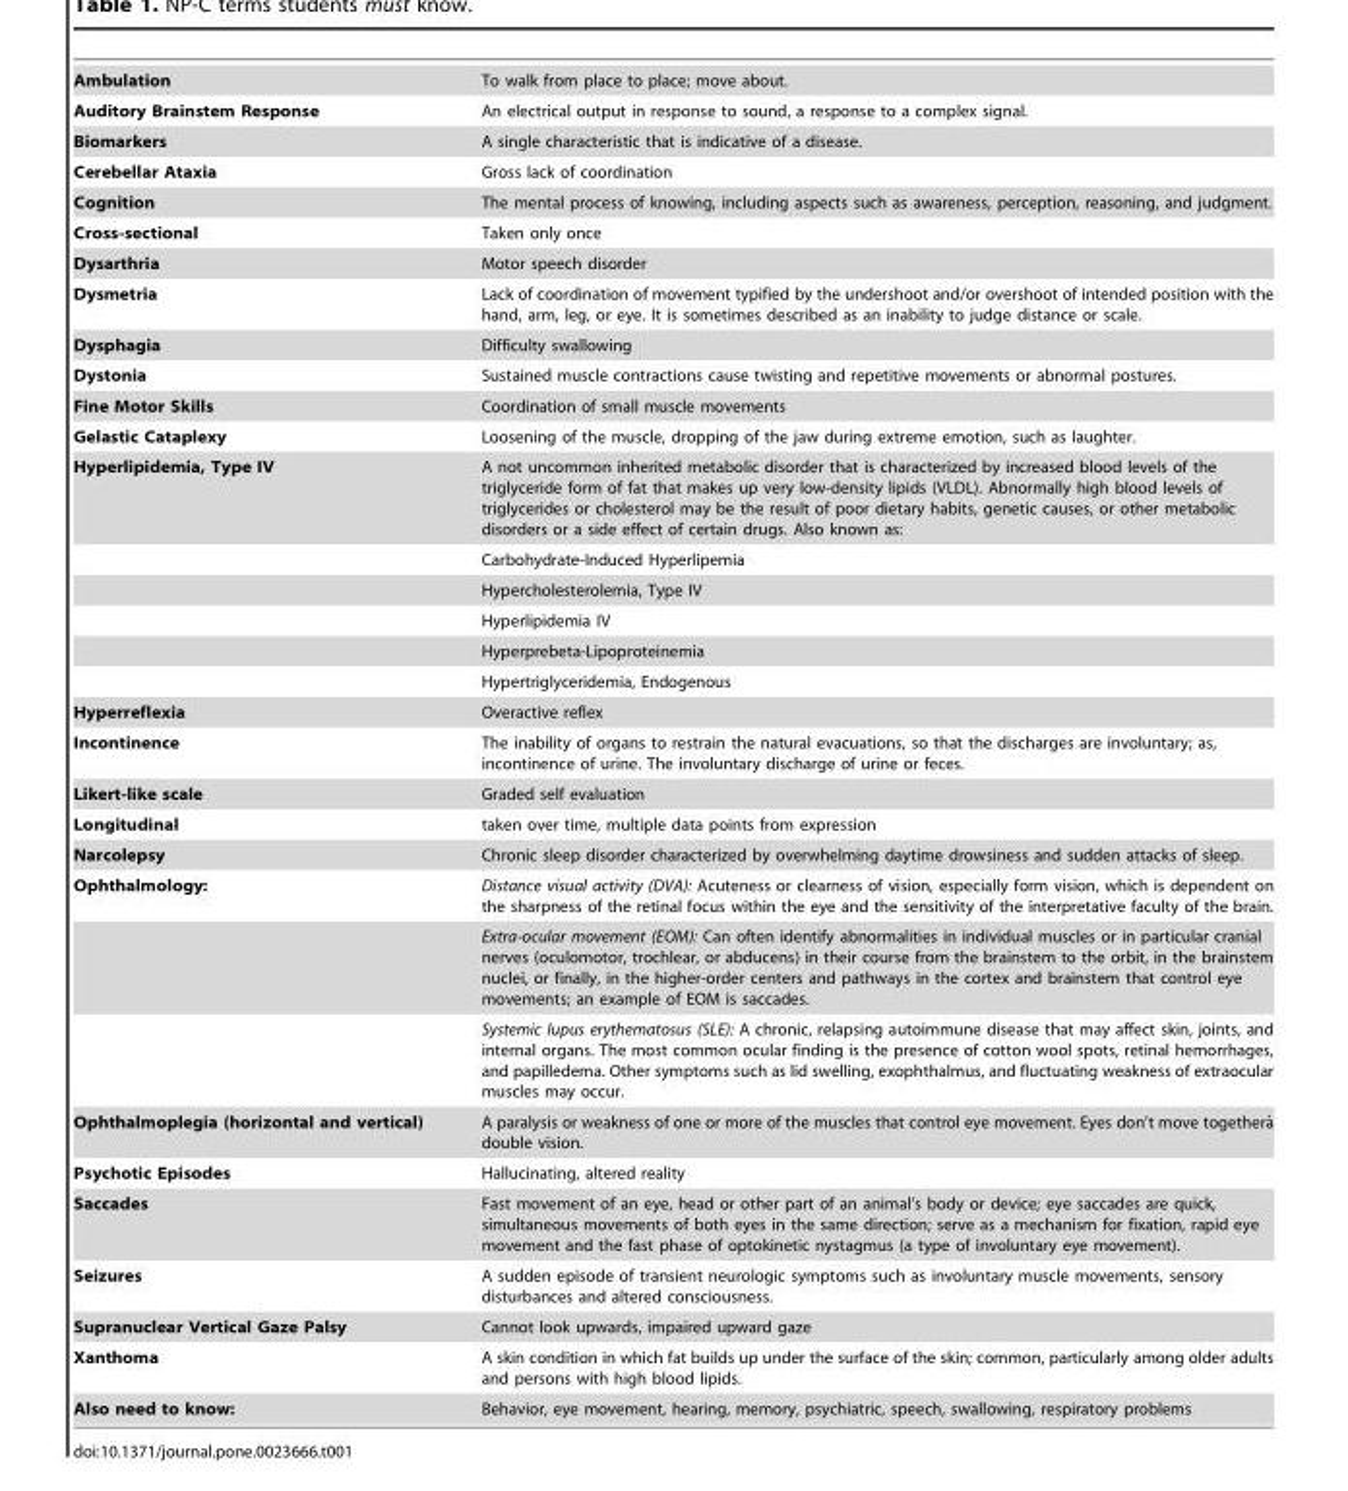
<table><tbody><tr><td>Ambulation</td><td>To walk from place to place; move about.</td></tr><tr><td>Auditory Brainstem Response</td><td>An electrical output in response to sound, a response to a complex signal.</td></tr><tr><td>Biomarkers</td><td>A single characteristic that is indicative of a disease.</td></tr><tr><td>Cerebellar Ataxia</td><td>Gross lack of coordination</td></tr><tr><td>Cognition</td><td>The mental process of knowing, including aspects such as awareness, perception, reasoning, and judgment.</td></tr><tr><td>Cross-sectional</td><td>Taken only once</td></tr><tr><td>Dysarthria</td><td>Motor speech disorder</td></tr><tr><td>Dysmetria</td><td>Lack of coordination of movement typified by the undershoot and/or overshoot of intended position with the hand, arm, leg, or eye. It is sometimes described as an inability to judge distance or scale.</td></tr><tr><td>Dysphagia</td><td>Difficulty swallowing</td></tr><tr><td>Dystonia</td><td>Sustained muscle contractions cause twisting and repetitive movements or abnormal postures.</td></tr><tr><td>Fine Motor Skills</td><td>Coordination of small muscle movements</td></tr><tr><td>Gelastic Cataplexy</td><td>Loosening of the muscle, dropping of the jaw during extreme emotion, such as laughter.</td></tr><tr><td rowspan="6">Hyperlipidemia, Type IV</td><td>A not uncommon inherited metabolic disorder that is characterized by increased blood levels of the triglyceride form of fat that makes up very low-density lipids (VLDL). Abnormally high blood levels of triglycerides or cholesterol may be the result of poor dietary habits, genetic causes, or other metabolic disorders or a side effect of certain drugs. Also known as:</td></tr><tr><td>Carbohydrate-Induced Hyperlipemia</td></tr><tr><td>Hypercholesterolemia, Type IV</td></tr><tr><td>Hyperlipidemia IV</td></tr><tr><td>Hyperprebeta-Lipoproteinemia</td></tr><tr><td>Hypertriglyceridemia, Endogenous</td></tr><tr><td>Hyperreflexia</td><td>Overactive reflex</td></tr><tr><td>Incontinence</td><td>The inability of organs to restrain the natural evacuations, so that the discharges are involuntary; as, incontinence of urine. The involuntary discharge of urine or feces.</td></tr><tr><td>Likert-like scale</td><td>Graded self evaluation</td></tr><tr><td>Longitudinal</td><td>taken over time, multiple data points from expression</td></tr><tr><td>Narcolepsy</td><td>Chronic sleep disorder characterized by overwhelming daytime drowsiness and sudden attacks of sleep.</td></tr><tr><td rowspan="3">Ophthalmology:</td><td>Distance visual activity (DVA): Acuteness or clearness of vision, especially form vision, which is dependent on the sharpness of the retinal focus within the eye and the sensitivity of the interpretative faculty of the brain.</td></tr><tr><td>Extra-ocular movement (EOM): Can often identify abnormalities in individual muscles or in particular cranial nerves (oculomotor, trochlear, or abducens) in their course from the brainstem to the orbit, in the brainstem nuclei, or finally, in the higher-order centers and pathways in the cortex and brainstem that control eye movements; an example of EOM is saccades.</td></tr><tr><td>Systemic lupus erythematosus (SLE): A chronic, relapsing autoimmune disease that may affect skin, joints, and internal organs. The most common ocular finding is the presence of cotton wool spots, retinal hemorrhages, and papilledema. Other symptoms such as lid swelling, exophthalmus, and fluctuating weakness of extraocular muscles may occur.</td></tr><tr><td>Ophthalmoplegia (horizontal and vertical)</td><td>A paralysis or weakness of one or more of the muscles that control eye movement. Eyes don’t move togethera` double vision.</td></tr><tr><td>Psychotic Episodes</td><td>Hallucinating, altered reality</td></tr><tr><td>Saccades</td><td>Fast movement of an eye, head or other part of an animal’s body or device; eye saccades are quick, simultaneous movements of both eyes in the same direction; serve as a mechanism for fixation, rapid eye movement and the fast phase of optokinetic nystagmus (a type of involuntary eye movement).</td></tr><tr><td>Seizures</td><td>A sudden episode of transient neurologic symptoms such as involuntary muscle movements, sensory disturbances and altered consciousness.</td></tr><tr><td>Supranuclear Vertical Gaze Palsy</td><td>Cannot look upwards, impaired upward gaze</td></tr><tr><td>Xanthoma</td><td>A skin condition in which fat builds up under the surface of the skin; common, particularly among older adults and persons with high blood lipids.</td></tr><tr><td>Also need to know:</td><td>Behavior, eye movement, hearing, memory, psychiatric, speech, swallowing, respiratory problems</td></tr></tbody></table>